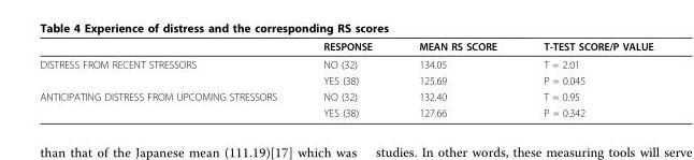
<table><thead><tr><td></td><td>RESPONSE</td><td>MEAN RS SCORE</td><td>T-TEST SCORE/P VALUE</td></tr></thead><tbody><tr><td rowspan="2">DISTRESS FROM RECENT STRESSORS</td><td>NO (32)</td><td>134.05</td><td>T = 2.01</td></tr><tr><td>YES (38)</td><td>125.69</td><td>P = 0.045</td></tr><tr><td rowspan="2">ANTICIPATING DISTRESS FROM UPCOMING STRESSORS</td><td>NO (32)</td><td>132.40</td><td>T = 0.95</td></tr><tr><td>YES (38)</td><td>127.66</td><td>P = 0.342</td></tr></tbody></table>